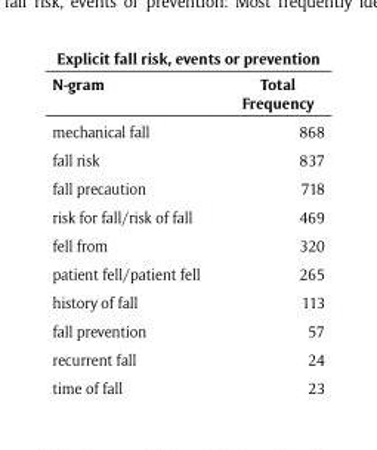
<table><thead><tr><td colspan="2">Explicit fall risk, events or prevention</td></tr><tr><td>N-gram</td><td>Total Frequency</td></tr></thead><tbody><tr><td>mechanical fall</td><td>868</td></tr><tr><td>fall risk</td><td>837</td></tr><tr><td>fall precaution</td><td>718</td></tr><tr><td>risk for fall/risk of fall</td><td>469</td></tr><tr><td>fell from</td><td>320</td></tr><tr><td>patient fell/patient fell</td><td>265</td></tr><tr><td>history of fall</td><td>113</td></tr><tr><td>fall prevention</td><td>57</td></tr><tr><td>recurrent fall</td><td>24</td></tr><tr><td>time of fall</td><td>23</td></tr></tbody></table>